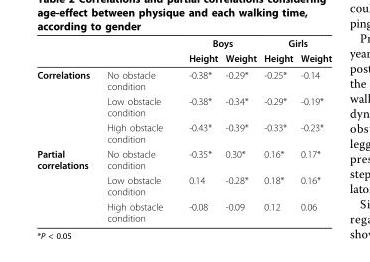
<table><thead><tr><td rowspan="2"></td><td rowspan="2"></td><td colspan="2">Boys</td><td colspan="2">Girls</td></tr><tr><td>Height</td><td>Weight</td><td>Height</td><td>Weight</td></tr></thead><tbody><tr><td rowspan="3">Correlations</td><td>No obstacle condition</td><td>-0.38*</td><td>-0.29*</td><td>-0.25*</td><td>-0.14</td></tr><tr><td>Low obstacle condition</td><td>-0.38*</td><td>-0.34*</td><td>-0.29*</td><td>-0.19*</td></tr><tr><td>High obstacle condition</td><td>-0.43*</td><td>-0.39*</td><td>-0.33*</td><td>-0.23*</td></tr><tr><td rowspan="3">Partial correlations</td><td>No obstacle condition</td><td>-0.35*</td><td>0.30*</td><td>0.16*</td><td>0.17*</td></tr><tr><td>Low obstacle condition</td><td>0.14</td><td>-0.28*</td><td>0.18*</td><td>0.16*</td></tr><tr><td>High obstacle condition</td><td>-0.08</td><td>-0.09</td><td>0.12</td><td>0.06</td></tr></tbody></table>